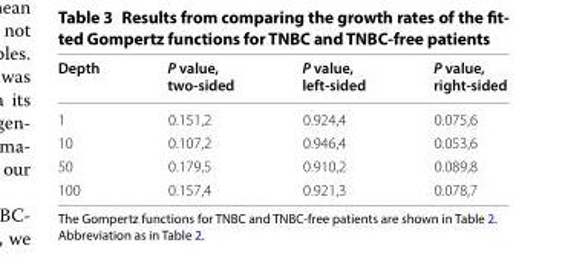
<table><thead><tr><td>Depth</td><td>P value, two-sided</td><td>P value, left-sided</td><td>P value, right-sided</td></tr></thead><tbody><tr><td>1</td><td>0.151,2</td><td>0.924,4</td><td>0.075,6</td></tr><tr><td>10</td><td>0.107,2</td><td>0.946,4</td><td>0.053,6</td></tr><tr><td>50</td><td>0.179,5</td><td>0.910,2</td><td>0.089,8</td></tr><tr><td>100</td><td>0.157,4</td><td>0.921,3</td><td>0.078,7</td></tr></tbody></table>